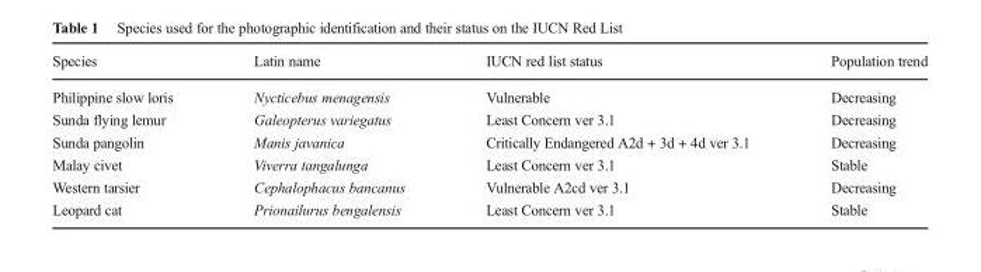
<table><thead><tr><td>Species</td><td>Latin name</td><td>IUCN red list status</td><td>Population trend</td></tr></thead><tbody><tr><td>Philippine slow loris</td><td>Nycticebus menagensis</td><td>Vulnerable</td><td>Decreasing</td></tr><tr><td>Sunda flying lemur</td><td>Galeopterus variegatus</td><td>Least Concern ver 3.1</td><td>Decreasing</td></tr><tr><td>Sunda pangolin</td><td>Manis javanica</td><td>Critically Endangered A2d + 3d + 4d ver 3.1</td><td>Decreasing</td></tr><tr><td>Malay civet</td><td>Viverra tangalunga</td><td>Least Concern ver 3.1</td><td>Stable</td></tr><tr><td>Western tarsier</td><td>Cephalophacus bancanus</td><td>Vulnerable A2cd ver 3.1</td><td>Decreasing</td></tr><tr><td>Leopard cat</td><td>Prionailurus bengalensis</td><td>Least Concern ver 3.1</td><td>Stable</td></tr></tbody></table>